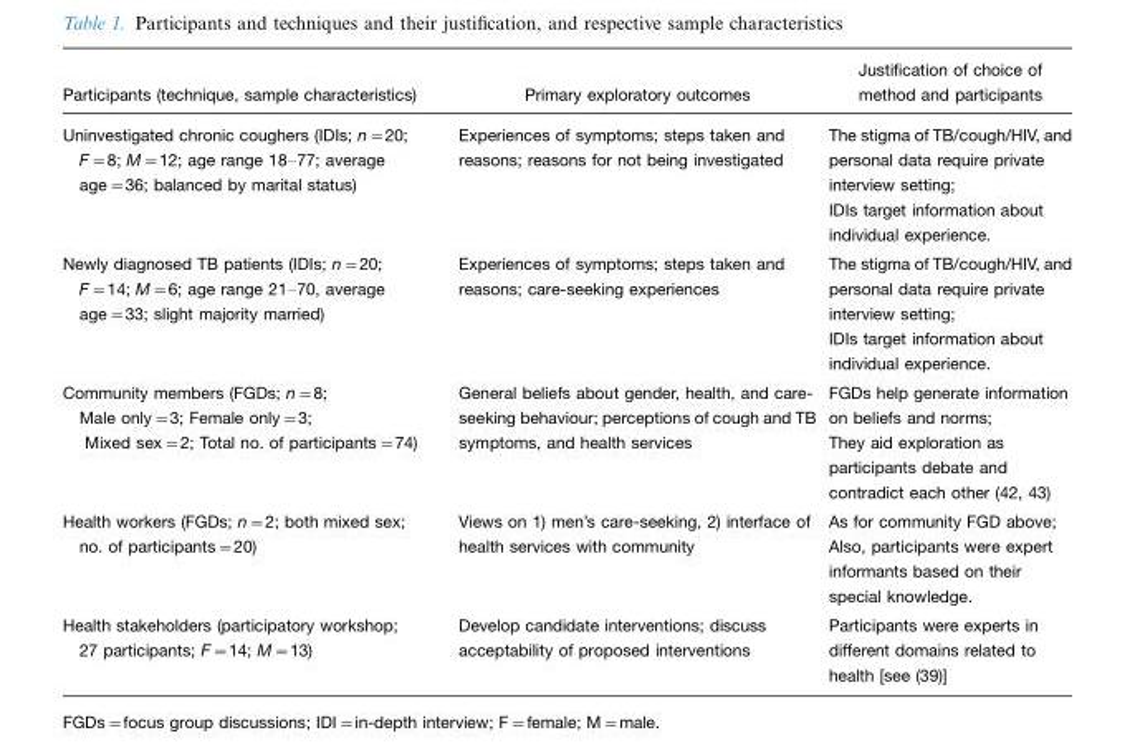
<table><thead><tr><td>Participants (technique, sample characteristics)</td><td>Primary exploratory outcomes</td><td>Justification of choice of method and participants</td></tr></thead><tbody><tr><td>Uninvestigated chronic coughers (IDIs; n=20; F=8; M=12; age range 18–77; average age=36; balanced by marital status)</td><td>Experiences of symptoms; steps taken and reasons; reasons for not being investigated</td><td>The stigma of TB/cough/HIV, and personal data require private interview setting; IDIs target information about individual experience.</td></tr><tr><td>Newly diagnosed TB patients (IDIs; n=20; F=14; M=6; age range 21–70, average age=33; slight majority married)</td><td>Experiences of symptoms; steps taken and reasons; care-seeking experiences</td><td>The stigma of TB/cough/HIV, and personal data require private interview setting; IDIs target information about individual experience.</td></tr><tr><td>Community members (FGDs; n=8; Male only=3; Female only=3; Mixed sex=2; Total no. of participants=74)</td><td>General beliefs about gender, health, and care- seeking behaviour; perceptions of cough and TB symptoms, and health services</td><td>FGDs help generate information on beliefs and norms; They aid exploration as participants debate and contradict each other (42, 43)</td></tr><tr><td>Health workers (FGDs; n=2; both mixed sex; no. of participants=20)</td><td>Views on 1) men’s care-seeking, 2) interface of health services with community</td><td>As for community FGD above; Also, participants were expert informants based on their special knowledge.</td></tr><tr><td>Health stakeholders (participatory workshop; 27 participants; F=14; M=13)</td><td>Develop candidate interventions; discuss acceptability of proposed interventions</td><td>Participants were experts in different domains related to health [see (39)]</td></tr></tbody></table>